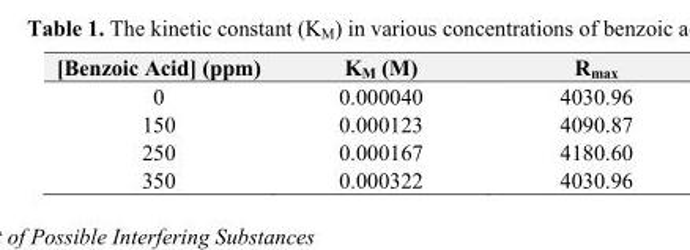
<table><thead><tr><td>[Benzoic Acid] (ppm)</td><td>K<sub>M</sub> (M)</td><td>R<sub>max</sub></td></tr></thead><tbody><tr><td>0</td><td>0.000040</td><td>4030.96</td></tr><tr><td>150</td><td>0.000123</td><td>4090.87</td></tr><tr><td>250</td><td>0.000167</td><td>4180.60</td></tr><tr><td>350</td><td>0.000322</td><td>4030.96</td></tr></tbody></table>